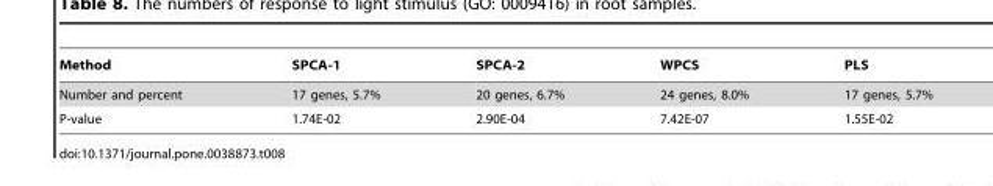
<table><thead><tr><td>Method</td><td>SPCA-1</td><td>SPCA-2</td><td>WPCS</td><td>PLS</td></tr></thead><tbody><tr><td>Number and percent</td><td>17 genes, 5.7%</td><td>20 genes, 6.7%</td><td>24 genes, 8.0%</td><td>17 genes, 5.7%</td></tr><tr><td>P-value</td><td>1.74E-02</td><td>2.90E-04</td><td>7.42E-07</td><td>1.55E-02</td></tr></tbody></table>